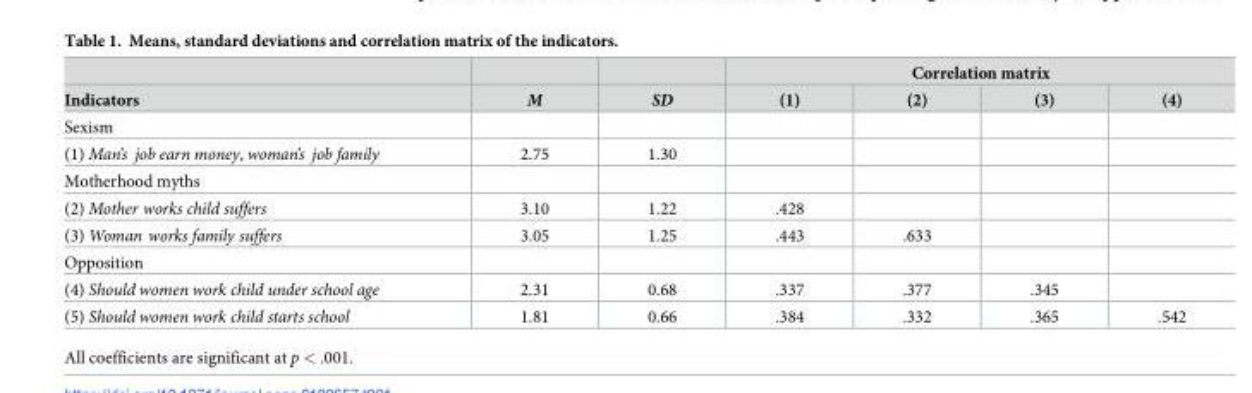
<table><thead><tr><td rowspan="2">Indicators</td><td rowspan="2">M</td><td rowspan="2">SD</td><td colspan="4">Correlation matrix</td></tr><tr><td>(1)</td><td>(2)</td><td>(3)</td><td>(4)</td></tr></thead><tbody><tr><td colspan="7">Sexism</td></tr><tr><td>(1) Man’s job earn money, woman’s job family</td><td>2.75</td><td>1.30</td><td></td><td></td><td></td><td></td></tr><tr><td colspan="7">Motherhood myths</td></tr><tr><td>(2) Mother works child suffers</td><td>3.10</td><td>1.22</td><td>.428</td><td></td><td></td><td></td></tr><tr><td>(3) Woman works family suffers</td><td>3.05</td><td>1.25</td><td>.443</td><td>.633</td><td></td><td></td></tr><tr><td colspan="7">Opposition</td></tr><tr><td>(4) Should women work child under school age</td><td>2.31</td><td>0.68</td><td>.337</td><td>.377</td><td>.345</td><td></td></tr><tr><td>(5) Should women work child starts school</td><td>1.81</td><td>0.66</td><td>.384</td><td>.332</td><td>.365</td><td>.542</td></tr></tbody></table>